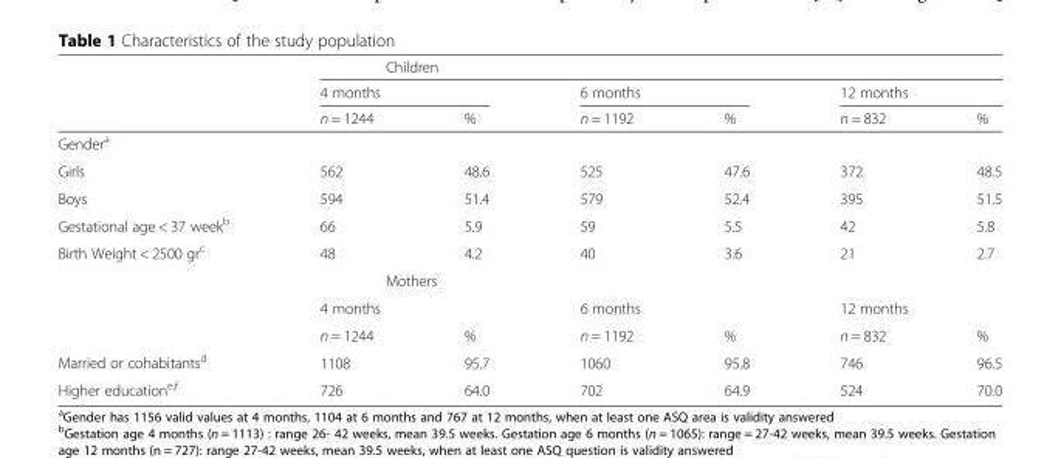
<table><thead><tr><td rowspan="3"></td><td colspan="6">Children</td></tr><tr><td colspan="2">4 months</td><td colspan="2">6 months</td><td colspan="2">12 months</td></tr><tr><td>n = 1244</td><td>%</td><td>n = 1192</td><td>%</td><td>n = 832</td><td>%</td></tr></thead><tbody><tr><td colspan="7">Gender<sup>a</sup></td></tr><tr><td>Girls</td><td>562</td><td>48.6</td><td>525</td><td>47.6</td><td>372</td><td>48.5</td></tr><tr><td>Boys</td><td>594</td><td>51.4</td><td>579</td><td>52.4</td><td>395</td><td>51.5</td></tr><tr><td>Gestational age &lt; 37 week<sup>b</sup></td><td>66</td><td>5.9</td><td>59</td><td>5.5</td><td>42</td><td>5.8</td></tr><tr><td rowspan="4">Birth Weight &lt; 2500 gr<sup>c</sup></td><td>48</td><td>4.2</td><td>40</td><td>3.6</td><td>21</td><td>2.7</td></tr><tr><td colspan="6">Mothers</td></tr><tr><td colspan="2">4 months</td><td colspan="2">6 months</td><td colspan="2">12 months</td></tr><tr><td>n = 1244</td><td>%</td><td>n = 1192</td><td>%</td><td>n = 832</td><td>%</td></tr><tr><td>Married or cohabitants<sup>d</sup></td><td>1108</td><td>95.7</td><td>1060</td><td>95.8</td><td>746</td><td>96.5</td></tr><tr><td>Higher education<sup>e,f</sup></td><td>726</td><td>64.0</td><td>702</td><td>64.9</td><td>524</td><td>70.0</td></tr></tbody></table>